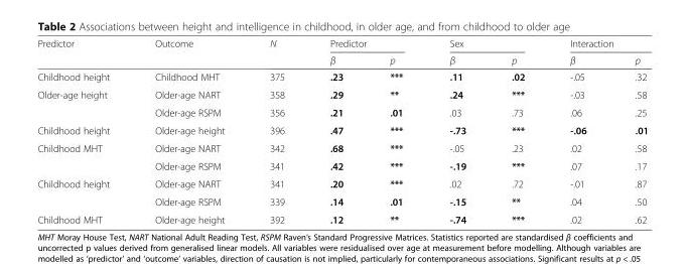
<table><thead><tr><td rowspan="2">Predictor</td><td rowspan="2">Outcome</td><td rowspan="2">N</td><td colspan="2">Predictor</td><td colspan="2">Sex</td><td colspan="2">Interaction</td></tr><tr><td>β</td><td>p</td><td>β</td><td>p</td><td>β</td><td>p</td></tr></thead><tbody><tr><td>Childhood height</td><td>Childhood MHT</td><td>375</td><td>.23</td><td>***</td><td>.11</td><td>.02</td><td>-.05</td><td>.32</td></tr><tr><td rowspan="2">Older-age height</td><td>Older-age NART</td><td>358</td><td>.29</td><td>**</td><td>.24</td><td>***</td><td>-.03</td><td>.58</td></tr><tr><td>Older-age RSPM</td><td>356</td><td>.21</td><td>.01</td><td>.03</td><td>.73</td><td>.06</td><td>.25</td></tr><tr><td>Childhood height</td><td>Older-age height</td><td>396</td><td>.47</td><td>***</td><td>-.73</td><td>***</td><td>-.06</td><td>.01</td></tr><tr><td rowspan="2">Childhood MHT</td><td>Older-age NART</td><td>342</td><td>.68</td><td>***</td><td>-.05</td><td>.23</td><td>.02</td><td>.58</td></tr><tr><td>Older-age RSPM</td><td>341</td><td>.42</td><td>***</td><td>-.19</td><td>***</td><td>.07</td><td>.17</td></tr><tr><td rowspan="2">Childhood height</td><td>Older-age NART</td><td>341</td><td>.20</td><td>***</td><td>.02</td><td>.72</td><td>-.01</td><td>.87</td></tr><tr><td>Older-age RSPM</td><td>339</td><td>.14</td><td>.01</td><td>-.15</td><td>**</td><td>.04</td><td>.50</td></tr><tr><td>Childhood MHT</td><td>Older-age height</td><td>392</td><td>.12</td><td>**</td><td>-.74</td><td>***</td><td>.02</td><td>.62</td></tr></tbody></table>